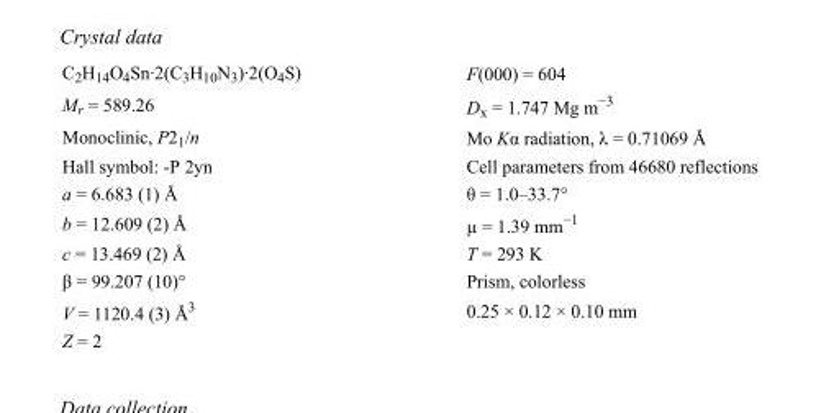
<table><tbody><tr><td>C<sub>2</sub>H<sub>14</sub>O<sub>4</sub>Sn·2(C<sub>3</sub>H<sub>10</sub>N<sub>3</sub>)·2(O<sub>4</sub>S)</td><td>F(000) = 604</td></tr><tr><td>M<sub>r</sub> = 589.26</td><td>D<sub>x</sub> = 1.747 Mg m<sup>−3</sup></td></tr><tr><td>Monoclinic, P2<sub>1</sub>/n</td><td>Mo Kα radiation, λ = 0.71069 Å</td></tr><tr><td>Hall symbol: -P 2yn</td><td>Cell parameters from 46680 reflections</td></tr><tr><td>a = 6.683 (1) Å</td><td>θ = 1.0–33.7°</td></tr><tr><td>b = 12.609 (2) Å</td><td>µ = 1.39 mm<sup>−1</sup></td></tr><tr><td>c = 13.469 (2) Å</td><td>T = 293 K</td></tr><tr><td>β = 99.207 (10)°</td><td>Prism, colorless</td></tr><tr><td>V = 1120.4 (3) Å<sup>3</sup></td><td>0.25 × 0.12 × 0.10 mm</td></tr><tr><td>Z = 2</td><td></td></tr></tbody></table>